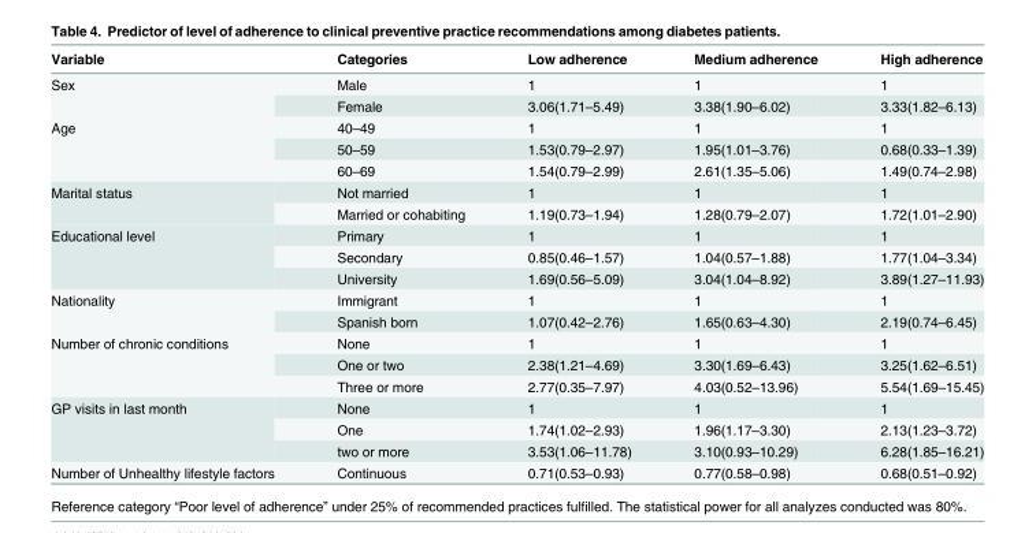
<table><thead><tr><td>Variable</td><td>Categories</td><td>Low adherence</td><td>Medium adherence</td><td>High adherence</td></tr></thead><tbody><tr><td rowspan="2">Sex</td><td>Male</td><td>1</td><td>1</td><td>1</td></tr><tr><td>Female</td><td>3.06(1.71–5.49)</td><td>3.38(1.90–6.02)</td><td>3.33(1.82–6.13)</td></tr><tr><td rowspan="3">Age</td><td>40–49</td><td>1</td><td>1</td><td>1</td></tr><tr><td>50–59</td><td>1.53(0.79–2.97)</td><td>1.95(1.01–3.76)</td><td>0.68(0.33–1.39)</td></tr><tr><td>60–69</td><td>1.54(0.79–2.99)</td><td>2.61(1.35–5.06)</td><td>1.49(0.74–2.98)</td></tr><tr><td rowspan="2">Marital status</td><td>Not married</td><td>1</td><td>1</td><td>1</td></tr><tr><td>Married or cohabiting</td><td>1.19(0.73–1.94)</td><td>1.28(0.79–2.07)</td><td>1.72(1.01–2.90)</td></tr><tr><td rowspan="3">Educational level</td><td>Primary</td><td>1</td><td>1</td><td>1</td></tr><tr><td>Secondary</td><td>0.85(0.46–1.57)</td><td>1.04(0.57–1.88)</td><td>1.77(1.04–3.34)</td></tr><tr><td>University</td><td>1.69(0.56–5.09)</td><td>3.04(1.04–8.92)</td><td>3.89(1.27–11.93)</td></tr><tr><td rowspan="2">Nationality</td><td>Immigrant</td><td>1</td><td>1</td><td>1</td></tr><tr><td>Spanish born</td><td>1.07(0.42–2.76)</td><td>1.65(0.63–4.30)</td><td>2.19(0.74–6.45)</td></tr><tr><td rowspan="3">Number of chronic conditions</td><td>None</td><td>1</td><td>1</td><td>1</td></tr><tr><td>One or two</td><td>2.38(1.21–4.69)</td><td>3.30(1.69–6.43)</td><td>3.25(1.62–6.51)</td></tr><tr><td>Three or more</td><td>2.77(0.35–7.97)</td><td>4.03(0.52–13.96)</td><td>5.54(1.69–15.45)</td></tr><tr><td rowspan="3">GP visits in last month</td><td>None</td><td>1</td><td>1</td><td>1</td></tr><tr><td>One</td><td>1.74(1.02–2.93)</td><td>1.96(1.17–3.30)</td><td>2.13(1.23–3.72)</td></tr><tr><td>two or more</td><td>3.53(1.06–11.78)</td><td>3.10(0.93–10.29)</td><td>6.28(1.85–16.21)</td></tr><tr><td>Number of Unhealthy lifestyle factors</td><td>Continuous</td><td>0.71(0.53–0.93)</td><td>0.77(0.58–0.98)</td><td>0.68(0.51–0.92)</td></tr></tbody></table>